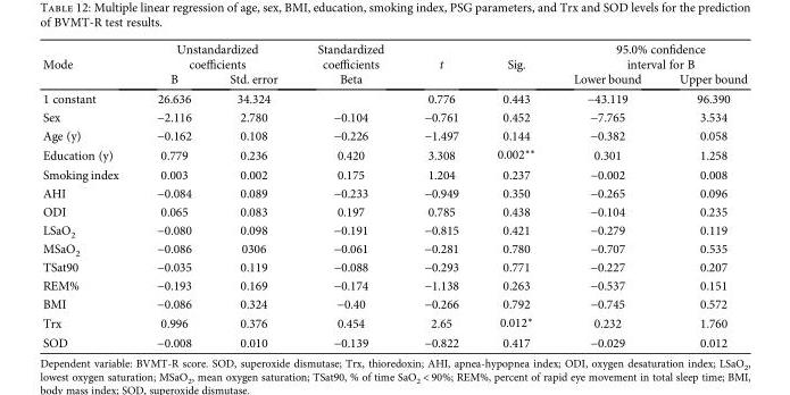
<table><thead><tr><td rowspan="2">Mode</td><td colspan="2">Unstandardized coefficients</td><td rowspan="2">Standardized coefficients Beta</td><td rowspan="2">t</td><td rowspan="2">Sig.</td><td colspan="2">95.0% confidence interval for B</td></tr><tr><td>B</td><td>Std. error</td><td>Lower bound</td><td>Upper bound</td></tr></thead><tbody><tr><td>1 constant</td><td>26.636</td><td>34.324</td><td></td><td>0.776</td><td>0.443</td><td>−43.119</td><td>96.390</td></tr><tr><td>Sex</td><td>−2.116</td><td>2.780</td><td>−0.104</td><td>−0.761</td><td>0.452</td><td>−7.765</td><td>3.534</td></tr><tr><td>Age (y)</td><td>−0.162</td><td>0.108</td><td>−0.226</td><td>−1.497</td><td>0.144</td><td>−0.382</td><td>0.058</td></tr><tr><td>Education (y)</td><td>0.779</td><td>0.236</td><td>0.420</td><td>3.308</td><td>0.002∗∗</td><td>0.301</td><td>1.258</td></tr><tr><td>Smoking index</td><td>0.003</td><td>0.002</td><td>0.175</td><td>1.204</td><td>0.237</td><td>−0.002</td><td>0.008</td></tr><tr><td>AHI</td><td>−0.084</td><td>0.089</td><td>−0.233</td><td>−0.949</td><td>0.350</td><td>−0.265</td><td>0.096</td></tr><tr><td>ODI</td><td>0.065</td><td>0.083</td><td>0.197</td><td>0.785</td><td>0.438</td><td>−0.104</td><td>0.235</td></tr><tr><td>LSaO<sub>2</sub></td><td>−0.080</td><td>0.098</td><td>−0.191</td><td>−0.815</td><td>0.421</td><td>−0.279</td><td>0.119</td></tr><tr><td>MSaO<sub>2</sub></td><td>−0.086</td><td>0306</td><td>−0.061</td><td>−0.281</td><td>0.780</td><td>−0.707</td><td>0.535</td></tr><tr><td>TSat90</td><td>−0.035</td><td>0.119</td><td>−0.088</td><td>−0.293</td><td>0.771</td><td>−0.227</td><td>0.207</td></tr><tr><td>REM%</td><td>−0.193</td><td>0.169</td><td>−0.174</td><td>−1.138</td><td>0.263</td><td>−0.537</td><td>0.151</td></tr><tr><td>BMI</td><td>−0.086</td><td>0.324</td><td>−0.40</td><td>−0.266</td><td>0.792</td><td>−0.745</td><td>0.572</td></tr><tr><td>Trx</td><td>0.996</td><td>0.376</td><td>0.454</td><td>2.65</td><td>0.012∗</td><td>0.232</td><td>1.760</td></tr><tr><td>SOD</td><td>−0.008</td><td>0.010</td><td>−0.139</td><td>−0.822</td><td>0.417</td><td>−0.029</td><td>0.012</td></tr></tbody></table>